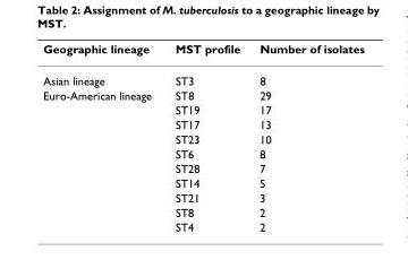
<table><thead><tr><td>Geographic lineage</td><td>MST profile</td><td>Number of isolates</td></tr></thead><tbody><tr><td>Asian lineage</td><td>ST3</td><td>8</td></tr><tr><td rowspan="10">Euro-American lineage</td><td>ST8</td><td>29</td></tr><tr><td>ST19</td><td>17</td></tr><tr><td>ST17</td><td>13</td></tr><tr><td>ST23</td><td>10</td></tr><tr><td>ST6</td><td>8</td></tr><tr><td>ST28</td><td>7</td></tr><tr><td>ST14</td><td>5</td></tr><tr><td>ST21</td><td>3</td></tr><tr><td>ST8</td><td>2</td></tr><tr><td>ST4</td><td>2</td></tr></tbody></table>